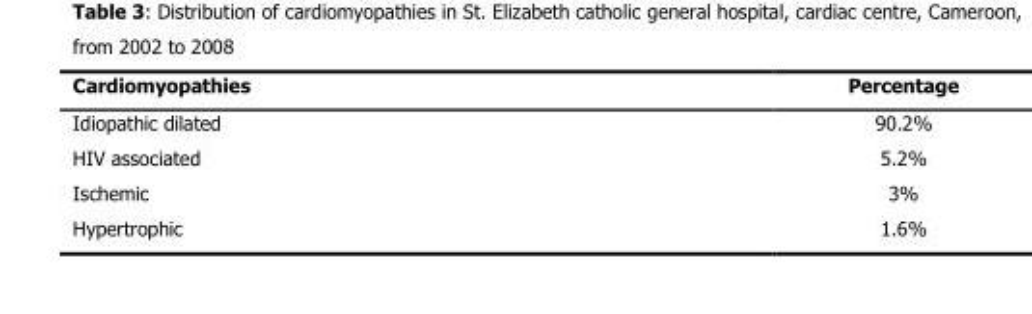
<table><thead><tr><td>Cardiomyopathies</td><td>Percentage</td></tr></thead><tbody><tr><td>Idiopathic dilated</td><td>90.2%</td></tr><tr><td>HIV associated</td><td>5.2%</td></tr><tr><td>Ischemic</td><td>3%</td></tr><tr><td>Hypertrophic</td><td>1.6%</td></tr></tbody></table>